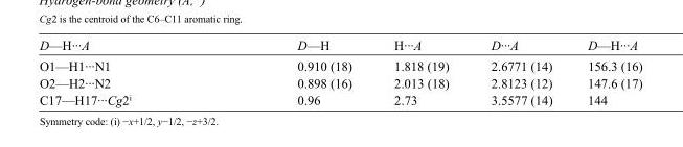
<table><tbody><tr><td>D—H···A</td><td>D—H</td><td>H···A</td><td>D···A</td><td>D—H···A</td></tr><tr><td>O1—H1···N1</td><td>0.910 (18)</td><td>1.818 (19)</td><td>2.6771 (14)</td><td>156.3 (16)</td></tr><tr><td>O2—H2···N2</td><td>0.898 (16)</td><td>2.013 (18)</td><td>2.8123 (12)</td><td>147.6 (17)</td></tr><tr><td>C17—H17···Cg2<sup>i</sup></td><td>0.96</td><td>2.73</td><td>3.5577 (14)</td><td>144</td></tr></tbody></table>